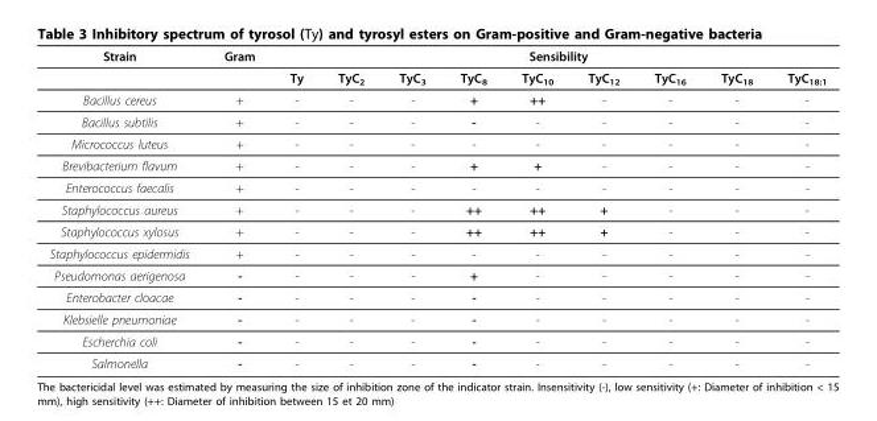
<table><thead><tr><td rowspan="2">Strain</td><td rowspan="2">Gram</td><td colspan="9">Sensibility</td></tr><tr><td>Ty</td><td>TyC<sub>2</sub></td><td>TyC<sub>3</sub></td><td>TyC<sub>8</sub></td><td>TyC<sub>10</sub></td><td>TyC<sub>12</sub></td><td>TyC<sub>16</sub></td><td>TyC<sub>18</sub></td><td>TyC<sub>18:1</sub></td></tr></thead><tbody><tr><td>Bacillus cereus</td><td>+</td><td>-</td><td>-</td><td>-</td><td>+</td><td>++</td><td>-</td><td>-</td><td>-</td><td>-</td></tr><tr><td>Bacillus subtilis</td><td>+</td><td>-</td><td>-</td><td>-</td><td>-</td><td>-</td><td>-</td><td>-</td><td>-</td><td>-</td></tr><tr><td>Micrococcus luteus</td><td>+</td><td>-</td><td>-</td><td>-</td><td>-</td><td>-</td><td>-</td><td>-</td><td>-</td><td>-</td></tr><tr><td>Brevibacterium flavum</td><td>+</td><td>-</td><td>-</td><td>-</td><td>+</td><td>+</td><td>-</td><td>-</td><td>-</td><td>-</td></tr><tr><td>Enterococcus faecalis</td><td>+</td><td>-</td><td>-</td><td>-</td><td>-</td><td>-</td><td>-</td><td>-</td><td>-</td><td>-</td></tr><tr><td>Staphylococcus aureus</td><td>+</td><td>-</td><td>-</td><td>-</td><td>++</td><td>++</td><td>+</td><td>-</td><td>-</td><td>-</td></tr><tr><td>Staphylococcus xylosus</td><td>+</td><td>-</td><td>-</td><td>-</td><td>++</td><td>++</td><td>+</td><td>-</td><td>-</td><td>-</td></tr><tr><td>Staphylococcus epidermidis</td><td>+</td><td>-</td><td>-</td><td>-</td><td>-</td><td>-</td><td>-</td><td>-</td><td>-</td><td>-</td></tr><tr><td>Pseudomonas aerigenosa</td><td>-</td><td>-</td><td>-</td><td>-</td><td>+</td><td>-</td><td>-</td><td>-</td><td>-</td><td>-</td></tr><tr><td>Enterobacter cloacae</td><td>-</td><td>-</td><td>-</td><td>-</td><td>-</td><td>-</td><td>-</td><td>-</td><td>-</td><td>-</td></tr><tr><td>Klebsielle pneumoniae</td><td>-</td><td>-</td><td>-</td><td>-</td><td>-</td><td>-</td><td>-</td><td>-</td><td>-</td><td>-</td></tr><tr><td>Escherchia coli</td><td>-</td><td>-</td><td>-</td><td>-</td><td>-</td><td>-</td><td>-</td><td>-</td><td>-</td><td>-</td></tr><tr><td>Salmonella</td><td>-</td><td>-</td><td>-</td><td>-</td><td>-</td><td>-</td><td>-</td><td>-</td><td>-</td><td>-</td></tr></tbody></table>